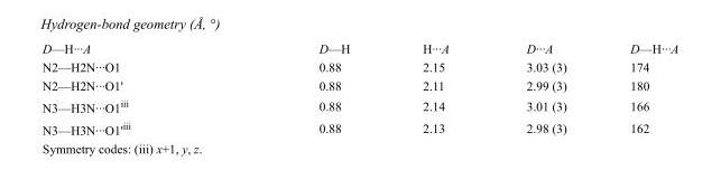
<table><tbody><tr><td>D—H···A</td><td>D—H</td><td>H···A</td><td>D···A</td><td>D—H···A</td></tr><tr><td>N2—H2N···O1</td><td>0.88</td><td>2.15</td><td>3.03 (3)</td><td>174</td></tr><tr><td>N2—H2N···O1&#x27;</td><td>0.88</td><td>2.11</td><td>2.99 (3)</td><td>180</td></tr><tr><td>N3—H3N···O1<sup>iii</sup></td><td>0.88</td><td>2.14</td><td>3.01 (3)</td><td>166</td></tr><tr><td>N3—H3N···O1&#x27;<sup>iii</sup></td><td>0.88</td><td>2.13</td><td>2.98 (3)</td><td>162</td></tr></tbody></table>